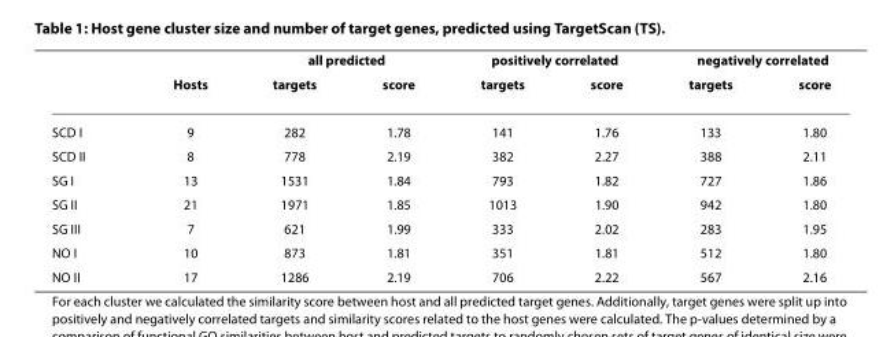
<table><thead><tr><td rowspan="2"></td><td rowspan="2">Hosts</td><td colspan="2">all predicted</td><td colspan="2">positively correlated</td><td colspan="2">negatively correlated</td></tr><tr><td>targets</td><td>score</td><td>targets</td><td>score</td><td>targets</td><td>score</td></tr></thead><tbody><tr><td>SCD I</td><td>9</td><td>282</td><td>1.78</td><td>141</td><td>1.76</td><td>133</td><td>1.80</td></tr><tr><td>SCD II</td><td>8</td><td>778</td><td>2.19</td><td>382</td><td>2.27</td><td>388</td><td>2.11</td></tr><tr><td>SG I</td><td>13</td><td>1531</td><td>1.84</td><td>793</td><td>1.82</td><td>727</td><td>1.86</td></tr><tr><td>SG II</td><td>21</td><td>1971</td><td>1.85</td><td>1013</td><td>1.90</td><td>942</td><td>1.80</td></tr><tr><td>SG III</td><td>7</td><td>621</td><td>1.99</td><td>333</td><td>2.02</td><td>283</td><td>1.95</td></tr><tr><td>NO I</td><td>10</td><td>873</td><td>1.81</td><td>351</td><td>1.81</td><td>512</td><td>1.80</td></tr><tr><td>NO II</td><td>17</td><td>1286</td><td>2.19</td><td>706</td><td>2.22</td><td>567</td><td>2.16</td></tr></tbody></table>